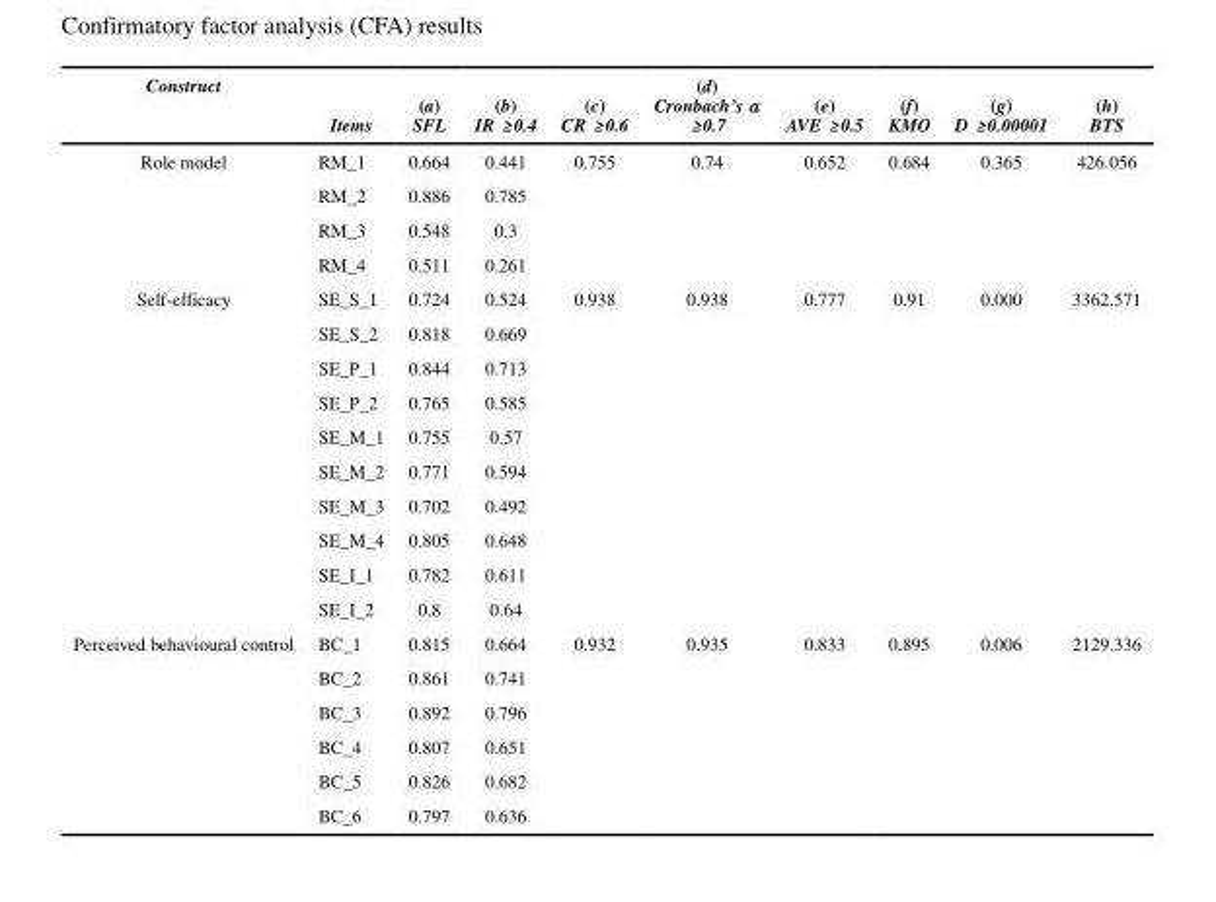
<table><thead><tr><td>Construct</td><td>Items</td><td>(a) SFL</td><td>(b) IR ≥ 0.4</td><td>(c) CR ≥ 0.6</td><td>(d) Cronbach’s α ≥ 0.7</td><td>(e) AVE ≥ 0.5</td><td>(f) KMO</td><td>(g) D ≥ 0.00001</td><td>(h) BTS</td></tr></thead><tbody><tr><td rowspan="4">Role model</td><td>RM_1</td><td>0.664</td><td>0.441</td><td>0.755</td><td>0.74</td><td>0.652</td><td>0.684</td><td>0.365</td><td>426.056</td></tr><tr><td>RM_2</td><td>0.886</td><td>0.785</td><td></td><td></td><td></td><td></td><td></td><td></td></tr><tr><td>RM_3</td><td>0.548</td><td>0.3</td><td></td><td></td><td></td><td></td><td></td><td></td></tr><tr><td>RM_4</td><td>0.511</td><td>0.261</td><td></td><td></td><td></td><td></td><td></td><td></td></tr><tr><td rowspan="10">Self-efficacy</td><td>SE_S_1</td><td>0.724</td><td>0.524</td><td>0.938</td><td>0.938</td><td>0.777</td><td>0.91</td><td>0.000</td><td>3362.571</td></tr><tr><td>SE_S_2</td><td>0.818</td><td>0.669</td><td></td><td></td><td></td><td></td><td></td><td></td></tr><tr><td>SE_P_1</td><td>0.844</td><td>0.713</td><td></td><td></td><td></td><td></td><td></td><td></td></tr><tr><td>SE_P_2</td><td>0.765</td><td>0.585</td><td></td><td></td><td></td><td></td><td></td><td></td></tr><tr><td>SE_M_1</td><td>0.755</td><td>0.57</td><td></td><td></td><td></td><td></td><td></td><td></td></tr><tr><td>SE_M_2</td><td>0.771</td><td>0.594</td><td></td><td></td><td></td><td></td><td></td><td></td></tr><tr><td>SE_M_3</td><td>0.702</td><td>0.492</td><td></td><td></td><td></td><td></td><td></td><td></td></tr><tr><td>SE_M_4</td><td>0.805</td><td>0.648</td><td></td><td></td><td></td><td></td><td></td><td></td></tr><tr><td>SE_I_1</td><td>0.782</td><td>0.611</td><td></td><td></td><td></td><td></td><td></td><td></td></tr><tr><td>SE_I_2</td><td>0.8</td><td>0.64</td><td></td><td></td><td></td><td></td><td></td><td></td></tr><tr><td rowspan="6">Perceived behavioural control</td><td>BC_1</td><td>0.815</td><td>0.664</td><td>0.932</td><td>0.935</td><td>0.833</td><td>0.895</td><td>0.006</td><td>2129.336</td></tr><tr><td>BC_2</td><td>0.861</td><td>0.741</td><td></td><td></td><td></td><td></td><td></td><td></td></tr><tr><td>BC_3</td><td>0.892</td><td>0.796</td><td></td><td></td><td></td><td></td><td></td><td></td></tr><tr><td>BC_4</td><td>0.807</td><td>0.651</td><td></td><td></td><td></td><td></td><td></td><td></td></tr><tr><td>BC_5</td><td>0.826</td><td>0.682</td><td></td><td></td><td></td><td></td><td></td><td></td></tr><tr><td>BC_6</td><td>0.797</td><td>0.636</td><td></td><td></td><td></td><td></td><td></td><td></td></tr></tbody></table>